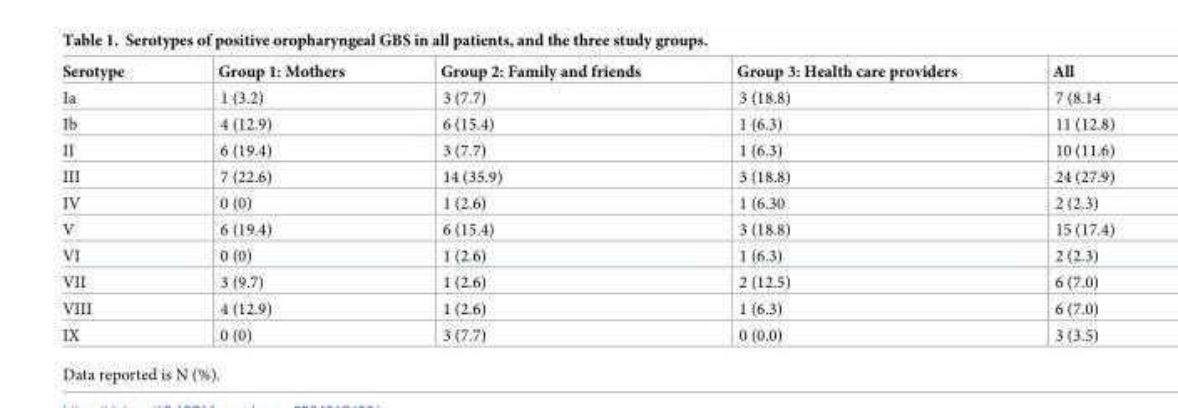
<table><thead><tr><td>Serotype</td><td>Group 1: Mothers</td><td>Group 2: Family and friends</td><td>Group 3: Health care providers</td><td>All</td></tr></thead><tbody><tr><td>Ia</td><td>1 (3.2)</td><td>3 (7.7)</td><td>3 (18.8)</td><td>7 (8.14</td></tr><tr><td>Ib</td><td>4 (12.9)</td><td>6 (15.4)</td><td>1 (6.3)</td><td>11 (12.8)</td></tr><tr><td>II</td><td>6 (19.4)</td><td>3 (7.7)</td><td>1 (6.3)</td><td>10 (11.6)</td></tr><tr><td>III</td><td>7 (22.6)</td><td>14 (35.9)</td><td>3 (18.8)</td><td>24 (27.9)</td></tr><tr><td>IV</td><td>0 (0)</td><td>1 (2.6)</td><td>1 (6.30</td><td>2 (2.3)</td></tr><tr><td>V</td><td>6 (19.4)</td><td>6 (15.4)</td><td>3 (18.8)</td><td>15 (17.4)</td></tr><tr><td>VI</td><td>0 (0)</td><td>1 (2.6)</td><td>1 (6.3)</td><td>2 (2.3)</td></tr><tr><td>VII</td><td>3 (9.7)</td><td>1 (2.6)</td><td>2 (12.5)</td><td>6 (7.0)</td></tr><tr><td>VIII</td><td>4 (12.9)</td><td>1 (2.6)</td><td>1 (6.3)</td><td>6 (7.0)</td></tr><tr><td>IX</td><td>0 (0)</td><td>3 (7.7)</td><td>0 (0.0)</td><td>3 (3.5)</td></tr></tbody></table>